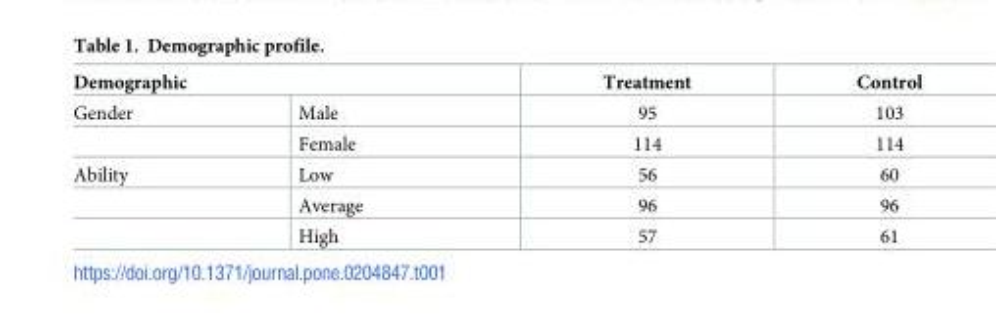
<table><thead><tr><td colspan="2">Demographic</td><td rowspan="2">Treatment 95</td><td rowspan="2">Control 103</td></tr><tr><td>Gender</td><td>Male</td></tr></thead><tbody><tr><td></td><td>Female</td><td>114</td><td>114</td></tr><tr><td rowspan="3">Ability</td><td>Low</td><td>56</td><td>60</td></tr><tr><td>Average</td><td>96</td><td>96</td></tr><tr><td>High</td><td>57</td><td>61</td></tr></tbody></table>